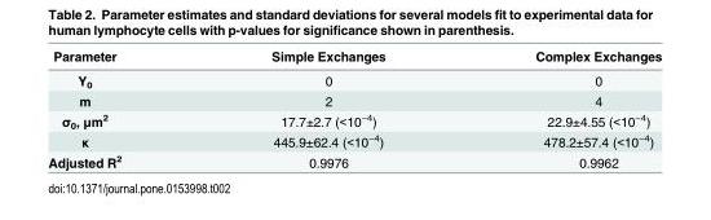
<table><thead><tr><td>Parameter</td><td>Simple Exchanges</td><td>Complex Exchanges</td></tr></thead><tbody><tr><td>Y<sub>0</sub></td><td>0</td><td>0</td></tr><tr><td>m</td><td>2</td><td>4</td></tr><tr><td>σ<sub>0</sub>, μm<sup>2</sup></td><td>17.7±2.7 (&lt;10<sup>−4</sup>)</td><td>22.9±4.55 (&lt;10<sup>−4</sup>)</td></tr><tr><td>κ</td><td>445.9±62.4 (&lt;10<sup>−4</sup>)</td><td>478.2±57.4 (&lt;10<sup>−4</sup>)</td></tr><tr><td>Adjusted R<sup>2</sup></td><td>0.9976</td><td>0.9962</td></tr></tbody></table>